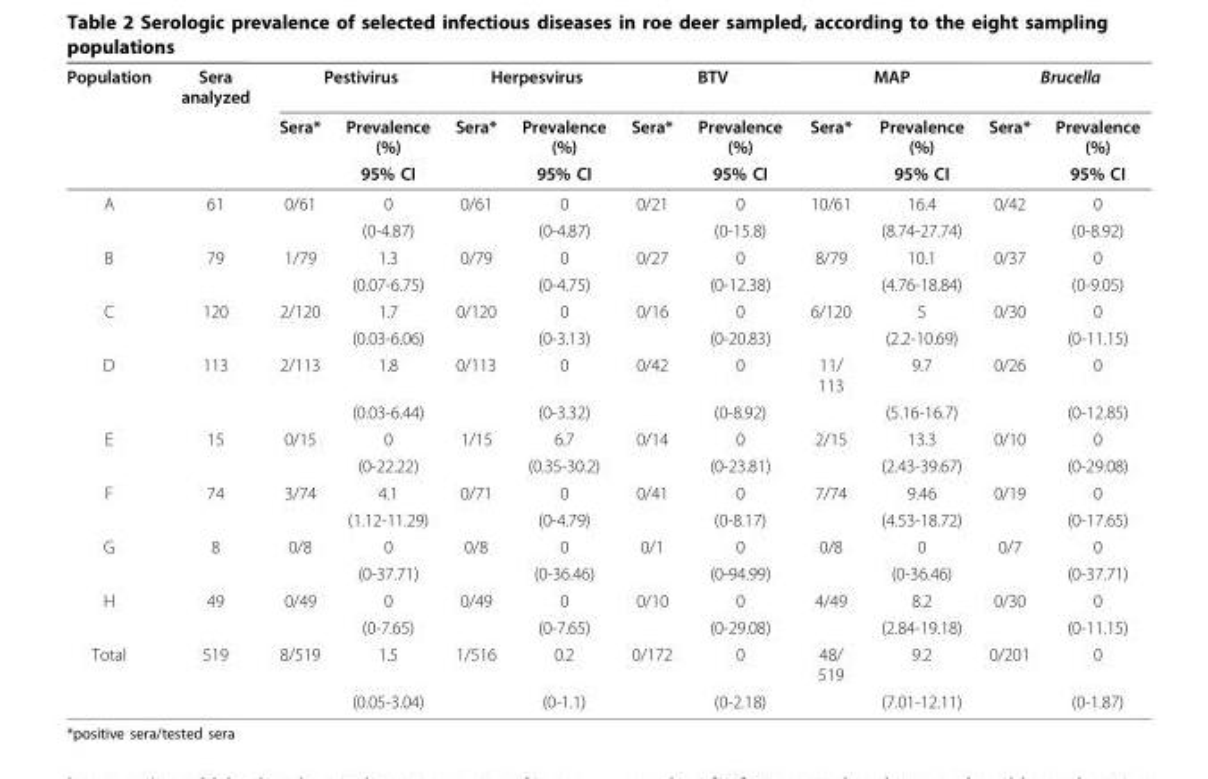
<table><thead><tr><td rowspan="3">Population</td><td rowspan="3">Sera analyzed</td><td colspan="2">Pestivirus</td><td colspan="2">Herpesvirus</td><td colspan="2">BTV</td><td colspan="2">MAP</td><td colspan="2">Brucella</td></tr><tr><td rowspan="2">Sera*</td><td rowspan="2">Prevalence (%) 95% CI</td><td rowspan="2">Sera*</td><td rowspan="2">Prevalence (%) 95% CI</td><td rowspan="2">Sera*</td><td rowspan="2">Prevalence (%) 95% CI</td><td rowspan="2">Sera*</td><td rowspan="2">Prevalence (%) 95% CI</td><td rowspan="2">Sera*</td><td rowspan="2">Prevalence (%) 95% CI</td></tr><tr></tr></thead><tbody><tr><td rowspan="2">A</td><td>61</td><td>0/61</td><td>0</td><td>0/61</td><td>0</td><td>0/21</td><td>0</td><td>10/61</td><td>16.4</td><td>0/42</td><td>0</td></tr><tr><td></td><td></td><td>(0-4.87)</td><td></td><td>(0-4.87)</td><td></td><td>(0-15.8)</td><td></td><td>(8.74-27.74)</td><td></td><td>(0-8.92)</td></tr><tr><td rowspan="2">B</td><td>79</td><td>1/79</td><td>1.3</td><td>0/79</td><td>0</td><td>0/27</td><td>0</td><td>8/79</td><td>10.1</td><td>0/37</td><td>0</td></tr><tr><td></td><td></td><td>(0.07-6.75)</td><td></td><td>(0-4.75)</td><td></td><td>(0-12.38)</td><td></td><td>(4.76-18.84)</td><td></td><td>(0-9.05)</td></tr><tr><td rowspan="2">C</td><td>120</td><td>2/120</td><td>1.7</td><td>0/120</td><td>0</td><td>0/16</td><td>0</td><td>6/120</td><td>5</td><td>0/30</td><td>0</td></tr><tr><td></td><td></td><td>(0.03-6.06)</td><td></td><td>(0-3.13)</td><td></td><td>(0-20.83)</td><td></td><td>(2.2-10.69)</td><td></td><td>(0-11.15)</td></tr><tr><td rowspan="2">D</td><td>113</td><td>2/113</td><td>1.8</td><td>0/113</td><td>0</td><td>0/42</td><td>0</td><td>11/ 113</td><td>9.7</td><td>0/26</td><td>0</td></tr><tr><td></td><td></td><td>(0.03-6.44)</td><td></td><td>(0-3.32)</td><td></td><td>(0-8.92)</td><td></td><td>(5.16-16.7)</td><td></td><td>(0-12.85)</td></tr><tr><td rowspan="2">E</td><td>15</td><td>0/15</td><td>0</td><td>1/15</td><td>6.7</td><td>0/14</td><td>0</td><td>2/15</td><td>13.3</td><td>0/10</td><td>0</td></tr><tr><td></td><td></td><td>(0-22.22)</td><td></td><td>(0.35-30.2)</td><td></td><td>(0-23.81)</td><td></td><td>(2.43-39.67)</td><td></td><td>(0-29.08)</td></tr><tr><td rowspan="2">F</td><td>74</td><td>3/74</td><td>4.1</td><td>0/71</td><td>0</td><td>0/41</td><td>0</td><td>7/74</td><td>9.46</td><td>0/19</td><td>0</td></tr><tr><td></td><td></td><td>(1.12-11.29)</td><td></td><td>(0-4.79)</td><td></td><td>(0-8.17)</td><td></td><td>(4.53-18.72)</td><td></td><td>(0-17.65)</td></tr><tr><td rowspan="2">G</td><td>8</td><td>0/8</td><td>0</td><td>0/8</td><td>0</td><td>0/1</td><td>0</td><td>0/8</td><td>0</td><td>0/7</td><td>0</td></tr><tr><td></td><td></td><td>(0-37.71)</td><td></td><td>(0-36.46)</td><td></td><td>(0-94.99)</td><td></td><td>(0-36.46)</td><td></td><td>(0-37.71)</td></tr><tr><td rowspan="2">H</td><td>49</td><td>0/49</td><td>0</td><td>0/49</td><td>0</td><td>0/10</td><td>0</td><td>4/49</td><td>8.2</td><td>0/30</td><td>0</td></tr><tr><td></td><td></td><td>(0-7.65)</td><td></td><td>(0-7.65)</td><td></td><td>(0-29.08)</td><td></td><td>(2.84-19.18)</td><td></td><td>(0-11.15)</td></tr><tr><td rowspan="2">Total</td><td>519</td><td>8/519</td><td>1.5</td><td>1/516</td><td>0.2</td><td>0/172</td><td>0</td><td>48/ 519</td><td>9.2</td><td>0/201</td><td>0</td></tr><tr><td></td><td></td><td>(0.05-3.04)</td><td></td><td>(0-1.1)</td><td></td><td>(0-2.18)</td><td></td><td>(7.01-12.11)</td><td></td><td>(0-1.87)</td></tr></tbody></table>